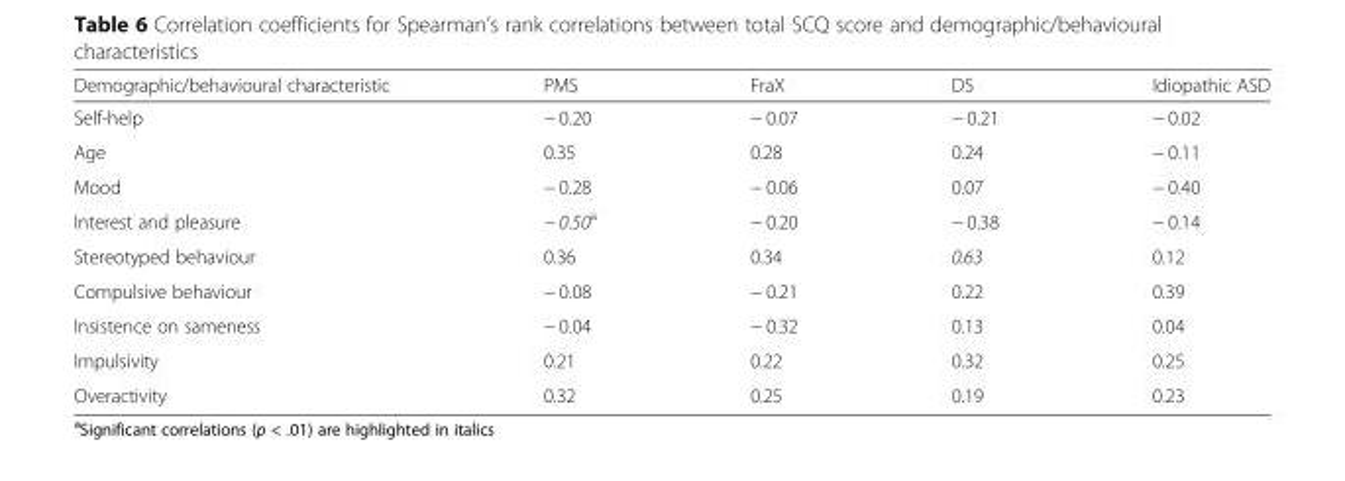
<table><thead><tr><td>Demographic/behavioural characteristic</td><td>PMS</td><td>FraX</td><td>DS</td><td>Idiopathic ASD</td></tr></thead><tbody><tr><td>Self-help</td><td>− 0.20</td><td>− 0.07</td><td>− 0.21</td><td>− 0.02</td></tr><tr><td>Age</td><td>0.35</td><td>0.28</td><td>0.24</td><td>− 0.11</td></tr><tr><td>Mood</td><td>− 0.28</td><td>− 0.06</td><td>0.07</td><td>− 0.40</td></tr><tr><td>Interest and pleasure</td><td>− 0.50<sup>a</sup></td><td>− 0.20</td><td>− 0.38</td><td>− 0.14</td></tr><tr><td>Stereotyped behaviour</td><td>0.36</td><td>0.34</td><td>0.63</td><td>0.12</td></tr><tr><td>Compulsive behaviour</td><td>− 0.08</td><td>− 0.21</td><td>0.22</td><td>0.39</td></tr><tr><td>Insistence on sameness</td><td>− 0.04</td><td>− 0.32</td><td>0.13</td><td>0.04</td></tr><tr><td>Impulsivity</td><td>0.21</td><td>0.22</td><td>0.32</td><td>0.25</td></tr><tr><td>Overactivity</td><td>0.32</td><td>0.25</td><td>0.19</td><td>0.23</td></tr></tbody></table>